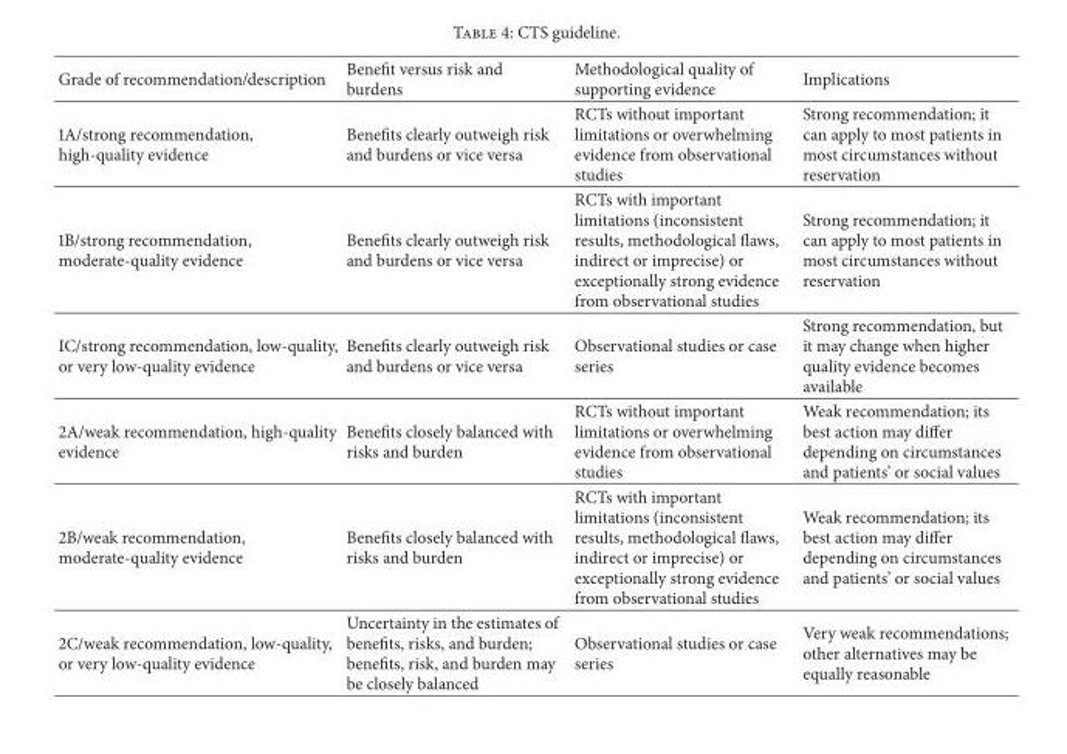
<table><thead><tr><td>Grade of recommendation/description</td><td>Benefit versus risk and burdens</td><td>Methodological quality of supporting evidence</td><td>Implications</td></tr></thead><tbody><tr><td>1A/strong recommendation, high-quality evidence</td><td>Benefits clearly outweigh risk and burdens or vice versa</td><td>RCTs without important limitations or overwhelming evidence from observational studies</td><td>Strong recommendation; it can apply to most patients in most circumstances without reservation</td></tr><tr><td>1B/strong recommendation, moderate-quality evidence</td><td>Benefits clearly outweigh risk and burdens or vice versa</td><td>RCTs with important limitations (inconsistent results, methodological flaws, indirect or imprecise) or exceptionally strong evidence from observational studies</td><td>Strong recommendation; it can apply to most patients in most circumstances without reservation</td></tr><tr><td>IC/strong recommendation, low-quality, or very low-quality evidence</td><td>Benefits clearly outweigh risk and burdens or vice versa</td><td>Observational studies or case series</td><td>Strong recommendation, but it may change when higher quality evidence becomes available</td></tr><tr><td>2A/weak recommendation, high-quality evidence</td><td>Benefits closely balanced with risks and burden</td><td>RCTs without important limitations or overwhelming evidence from observational studies</td><td>Weak recommendation; its best action may differ depending on circumstances and patients’ or social values</td></tr><tr><td>2B/weak recommendation, moderate-quality evidence</td><td>Benefits closely balanced with risks and burden</td><td>RCTs with important limitations (inconsistent results, methodological flaws, indirect or imprecise) or exceptionally strong evidence from observational studies</td><td>Weak recommendation; its best action may differ depending on circumstances and patients’ or social values</td></tr><tr><td>2C/weak recommendation, low-quality, or very low-quality evidence</td><td>Uncertainty in the estimates of benefits, risks, and burden; benefits, risk, and burden may be closely balanced</td><td>Observational studies or case series</td><td>Very weak recommendations; other alternatives may be equally reasonable</td></tr></tbody></table>